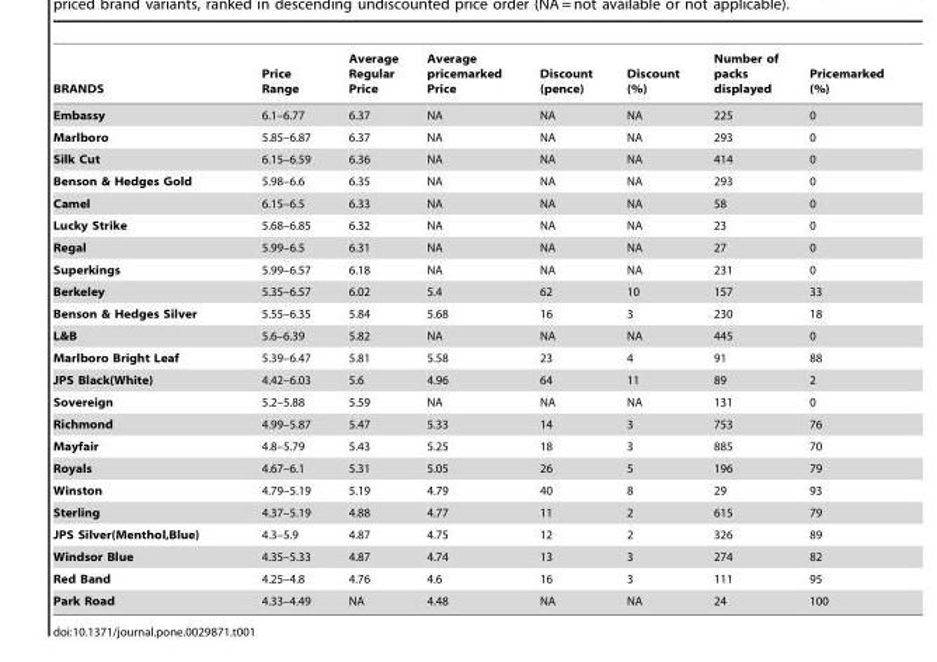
<table><thead><tr><td>BRANDS</td><td>Price Range</td><td>Average Regular Price</td><td>Average pricemarked Price</td><td>Discount (pence)</td><td>Discount (%)</td><td>Number of packs displayed</td><td>Pricemarked (%)</td></tr></thead><tbody><tr><td>Embassy</td><td>6.1–6.77</td><td>6.37</td><td>NA</td><td>NA</td><td>NA</td><td>225</td><td>0</td></tr><tr><td>Marlboro</td><td>5.85–6.87</td><td>6.37</td><td>NA</td><td>NA</td><td>NA</td><td>293</td><td>0</td></tr><tr><td>Silk Cut</td><td>6.15–6.59</td><td>6.36</td><td>NA</td><td>NA</td><td>NA</td><td>414</td><td>0</td></tr><tr><td>Benson &amp; Hedges Gold</td><td>5.98–6.6</td><td>6.35</td><td>NA</td><td>NA</td><td>NA</td><td>293</td><td>0</td></tr><tr><td>Camel</td><td>6.15–6.5</td><td>6.33</td><td>NA</td><td>NA</td><td>NA</td><td>58</td><td>0</td></tr><tr><td>Lucky Strike</td><td>5.68–6.85</td><td>6.32</td><td>NA</td><td>NA</td><td>NA</td><td>23</td><td>0</td></tr><tr><td>Regal</td><td>5.99–6.5</td><td>6.31</td><td>NA</td><td>NA</td><td>NA</td><td>27</td><td>0</td></tr><tr><td>Superkings</td><td>5.99–6.57</td><td>6.18</td><td>NA</td><td>NA</td><td>NA</td><td>231</td><td>0</td></tr><tr><td>Berkeley</td><td>5.35–6.57</td><td>6.02</td><td>5.4</td><td>62</td><td>10</td><td>157</td><td>33</td></tr><tr><td>Benson &amp; Hedges Silver</td><td>5.55–6.35</td><td>5.84</td><td>5.68</td><td>16</td><td>3</td><td>230</td><td>18</td></tr><tr><td>L&amp;B</td><td>5.6–6.39</td><td>5.82</td><td>NA</td><td>NA</td><td>NA</td><td>445</td><td>0</td></tr><tr><td>Marlboro Bright Leaf</td><td>5.39–6.47</td><td>5.81</td><td>5.58</td><td>23</td><td>4</td><td>91</td><td>88</td></tr><tr><td>JPS Black(White)</td><td>4.42–6.03</td><td>5.6</td><td>4.96</td><td>64</td><td>11</td><td>89</td><td>2</td></tr><tr><td>Sovereign</td><td>5.2–5.88</td><td>5.59</td><td>NA</td><td>NA</td><td>NA</td><td>131</td><td>0</td></tr><tr><td>Richmond</td><td>4.99–5.87</td><td>5.47</td><td>5.33</td><td>14</td><td>3</td><td>753</td><td>76</td></tr><tr><td>Mayfair</td><td>4.8–5.79</td><td>5.43</td><td>5.25</td><td>18</td><td>3</td><td>885</td><td>70</td></tr><tr><td>Royals</td><td>4.67–6.1</td><td>5.31</td><td>5.05</td><td>26</td><td>5</td><td>196</td><td>79</td></tr><tr><td>Winston</td><td>4.79–5.19</td><td>5.19</td><td>4.79</td><td>40</td><td>8</td><td>29</td><td>93</td></tr><tr><td>Sterling</td><td>4.37–5.19</td><td>4.88</td><td>4.77</td><td>11</td><td>2</td><td>615</td><td>79</td></tr><tr><td>JPS Silver(Menthol,Blue)</td><td>4.3–5.9</td><td>4.87</td><td>4.75</td><td>12</td><td>2</td><td>326</td><td>89</td></tr><tr><td>Windsor Blue</td><td>4.35–5.33</td><td>4.87</td><td>4.74</td><td>13</td><td>3</td><td>274</td><td>82</td></tr><tr><td>Red Band</td><td>4.25–4.8</td><td>4.76</td><td>4.6</td><td>16</td><td>3</td><td>111</td><td>95</td></tr><tr><td>Park Road</td><td>4.33–4.49</td><td>NA</td><td>4.48</td><td>NA</td><td>NA</td><td>24</td><td>100</td></tr></tbody></table>